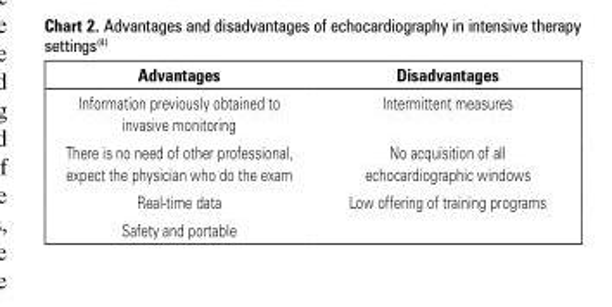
<table><thead><tr><td>Advantages</td><td>Disadvantages</td></tr></thead><tbody><tr><td>Information previously obtained to invasive monitoring</td><td>Intermittent measures</td></tr><tr><td>There is no need of other professional, expect the physician who do the exam</td><td>No acquisition of all echocardiographic windows</td></tr><tr><td>Real-time data</td><td>Low offering of training programs</td></tr><tr><td>Safety and portable</td><td></td></tr></tbody></table>